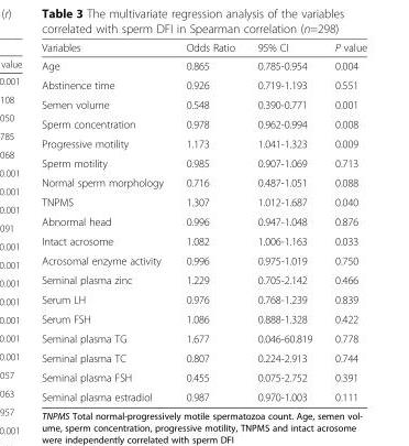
<table><thead><tr><td>Variables</td><td>Odds Ratio</td><td>95% CI</td><td>P value</td></tr></thead><tbody><tr><td>Age</td><td>0.865</td><td>0.785-0.954</td><td>0.004</td></tr><tr><td>Abstinence time</td><td>0.926</td><td>0.719-1.193</td><td>0.551</td></tr><tr><td>Semen volume</td><td>0.548</td><td>0.390-0.771</td><td>0.001</td></tr><tr><td>Sperm concentration</td><td>0.978</td><td>0.962-0.994</td><td>0.008</td></tr><tr><td>Progressive motility</td><td>1.173</td><td>1.041-1.323</td><td>0.009</td></tr><tr><td>Sperm motility</td><td>0.985</td><td>0.907-1.069</td><td>0.713</td></tr><tr><td>Normal sperm morphology</td><td>0.716</td><td>0.487-1.051</td><td>0.088</td></tr><tr><td>TNPMS</td><td>1.307</td><td>1.012-1.687</td><td>0.040</td></tr><tr><td>Abnormal head</td><td>0.996</td><td>0.947-1.048</td><td>0.876</td></tr><tr><td>Intact acrosome</td><td>1.082</td><td>1.006-1.163</td><td>0.033</td></tr><tr><td>Acrosomal enzyme activity</td><td>0.996</td><td>0.975-1.019</td><td>0.750</td></tr><tr><td>Seminal plasma zinc</td><td>1.229</td><td>0.705-2.142</td><td>0.466</td></tr><tr><td>Serum LH</td><td>0.976</td><td>0.768-1.239</td><td>0.839</td></tr><tr><td>Serum FSH</td><td>1.086</td><td>0.888-1.328</td><td>0.422</td></tr><tr><td>Seminal plasma TG</td><td>1.677</td><td>0.046-60.819</td><td>0.778</td></tr><tr><td>Seminal plasma TC</td><td>0.807</td><td>0.224-2.913</td><td>0.744</td></tr><tr><td>Seminal plasma FSH</td><td>0.455</td><td>0.075-2.752</td><td>0.391</td></tr><tr><td>Seminal plasma estradiol</td><td>0.987</td><td>0.970-1.003</td><td>0.111</td></tr></tbody></table>